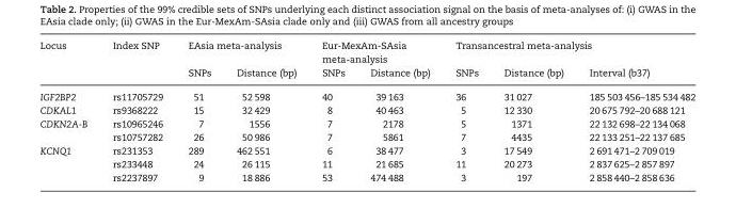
<table><thead><tr><td rowspan="2">Locus</td><td rowspan="2">Index SNP</td><td colspan="2">EAsia meta-analysis</td><td colspan="2">Eur-MexAm-SAsia meta-analysis</td><td colspan="3">Transancestral meta-analysis</td></tr><tr><td>SNPs</td><td>Distance (bp)</td><td>SNPs</td><td>Distance (bp)</td><td>SNPs</td><td>Distance (bp)</td><td>Interval (b37)</td></tr></thead><tbody><tr><td>IGF2BP2</td><td>rs11705729</td><td>51</td><td>52 598</td><td>40</td><td>39 163</td><td>36</td><td>31 027</td><td>185 503 456–185 534 482</td></tr><tr><td>CDKAL1</td><td>rs9368222</td><td>15</td><td>32 429</td><td>8</td><td>40 463</td><td>5</td><td>12 330</td><td>20 675 792–20 688 121</td></tr><tr><td rowspan="2">CDKN2A-B</td><td>rs10965246</td><td>7</td><td>1556</td><td>7</td><td>2178</td><td>5</td><td>1371</td><td>22 132 698–22 134 068</td></tr><tr><td>rs10757282</td><td>26</td><td>50 986</td><td>7</td><td>5861</td><td>7</td><td>4435</td><td>22 133 251–22 137 685</td></tr><tr><td rowspan="3">KCNQ1</td><td>rs231353</td><td>289</td><td>462 551</td><td>6</td><td>38 477</td><td>3</td><td>17 549</td><td>2 691 471–2 709 019</td></tr><tr><td>rs233448</td><td>24</td><td>26 115</td><td>11</td><td>21 685</td><td>11</td><td>20 273</td><td>2 837 625–2 857 897</td></tr><tr><td>rs2237897</td><td>9</td><td>18 886</td><td>53</td><td>474 488</td><td>3</td><td>197</td><td>2 858 440–2 858 636</td></tr></tbody></table>